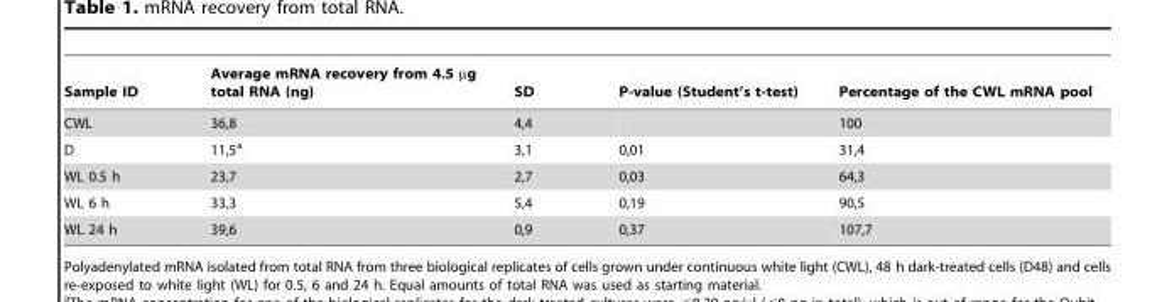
<table><thead><tr><td>Sample ID</td><td>Average mRNA recovery from 4.5 µg total RNA (ng)</td><td>SD</td><td>P-value (Student’s t-test)</td><td>Percentage of the CWL mRNA pool</td></tr></thead><tbody><tr><td>CWL</td><td>36,8</td><td>4,4</td><td></td><td>100</td></tr><tr><td>D</td><td>11,5<sup>a</sup></td><td>3,1</td><td>0,01</td><td>31,4</td></tr><tr><td>WL 0.5 h</td><td>23,7</td><td>2,7</td><td>0,03</td><td>64,3</td></tr><tr><td>WL 6 h</td><td>33,3</td><td>5,4</td><td>0,19</td><td>90,5</td></tr><tr><td>WL 24 h</td><td>39,6</td><td>0,9</td><td>0,37</td><td>107,7</td></tr></tbody></table>